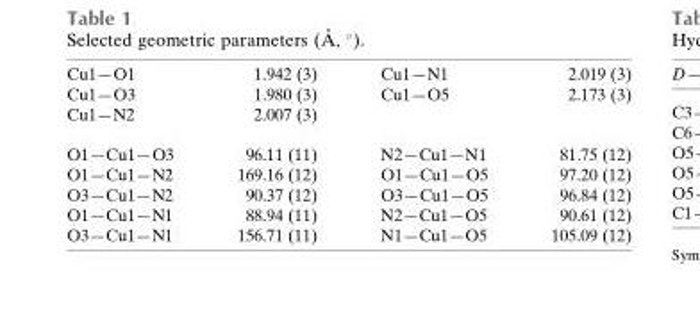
<table><tbody><tr><td>Cu1—O1</td><td>1.942 (3)</td><td>Cu1—N1</td><td>2.019 (3)</td></tr><tr><td>Cu1—O3</td><td>1.980 (3)</td><td>Cu1—O5</td><td>2.173 (3)</td></tr><tr><td>Cu1—N2</td><td>2.007 (3)</td><td></td><td></td></tr><tr><td>O1—Cu1—O3</td><td>96.11 (11)</td><td>N2—Cu1—N1</td><td>81.75 (12)</td></tr><tr><td>O1—Cu1—N2</td><td>169.16 (12)</td><td>O1—Cu1—O5</td><td>97.20 (12)</td></tr><tr><td>O3—Cu1—N2</td><td>90.37 (12)</td><td>O3—Cu1—O5</td><td>96.84 (12)</td></tr><tr><td>O1—Cu1—N1</td><td>88.94 (11)</td><td>N2—Cu1—O5</td><td>90.61 (12)</td></tr><tr><td>O3—Cu1—N1</td><td>156.71 (11)</td><td>N1—Cu1—O5</td><td>105.09 (12)</td></tr></tbody></table>